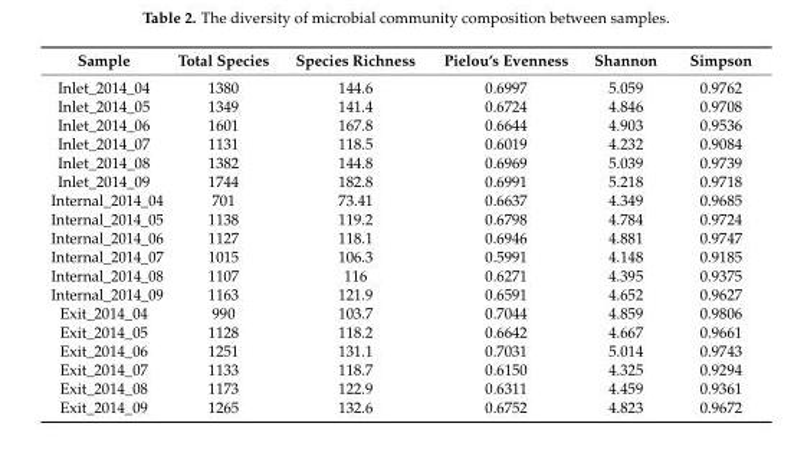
<table><thead><tr><td>Sample</td><td>Total Species</td><td>Species Richness</td><td>Pielou’s Evenness</td><td>Shannon</td><td>Simpson</td></tr></thead><tbody><tr><td>Inlet_2014_04</td><td>1380</td><td>144.6</td><td>0.6997</td><td>5.059</td><td>0.9762</td></tr><tr><td>Inlet_2014_05</td><td>1349</td><td>141.4</td><td>0.6724</td><td>4.846</td><td>0.9708</td></tr><tr><td>Inlet_2014_06</td><td>1601</td><td>167.8</td><td>0.6644</td><td>4.903</td><td>0.9536</td></tr><tr><td>Inlet_2014_07</td><td>1131</td><td>118.5</td><td>0.6019</td><td>4.232</td><td>0.9084</td></tr><tr><td>Inlet_2014_08</td><td>1382</td><td>144.8</td><td>0.6969</td><td>5.039</td><td>0.9739</td></tr><tr><td>Inlet_2014_09</td><td>1744</td><td>182.8</td><td>0.6991</td><td>5.218</td><td>0.9718</td></tr><tr><td>Internal_2014_04</td><td>701</td><td>73.41</td><td>0.6637</td><td>4.349</td><td>0.9685</td></tr><tr><td>Internal_2014_05</td><td>1138</td><td>119.2</td><td>0.6798</td><td>4.784</td><td>0.9724</td></tr><tr><td>Internal_2014_06</td><td>1127</td><td>118.1</td><td>0.6946</td><td>4.881</td><td>0.9747</td></tr><tr><td>Internal_2014_07</td><td>1015</td><td>106.3</td><td>0.5991</td><td>4.148</td><td>0.9185</td></tr><tr><td>Internal_2014_08</td><td>1107</td><td>116</td><td>0.6271</td><td>4.395</td><td>0.9375</td></tr><tr><td>Internal_2014_09</td><td>1163</td><td>121.9</td><td>0.6591</td><td>4.652</td><td>0.9627</td></tr><tr><td>Exit_2014_04</td><td>990</td><td>103.7</td><td>0.7044</td><td>4.859</td><td>0.9806</td></tr><tr><td>Exit_2014_05</td><td>1128</td><td>118.2</td><td>0.6642</td><td>4.667</td><td>0.9661</td></tr><tr><td>Exit_2014_06</td><td>1251</td><td>131.1</td><td>0.7031</td><td>5.014</td><td>0.9743</td></tr><tr><td>Exit_2014_07</td><td>1133</td><td>118.7</td><td>0.6150</td><td>4.325</td><td>0.9294</td></tr><tr><td>Exit_2014_08</td><td>1173</td><td>122.9</td><td>0.6311</td><td>4.459</td><td>0.9361</td></tr><tr><td>Exit_2014_09</td><td>1265</td><td>132.6</td><td>0.6752</td><td>4.823</td><td>0.9672</td></tr></tbody></table>